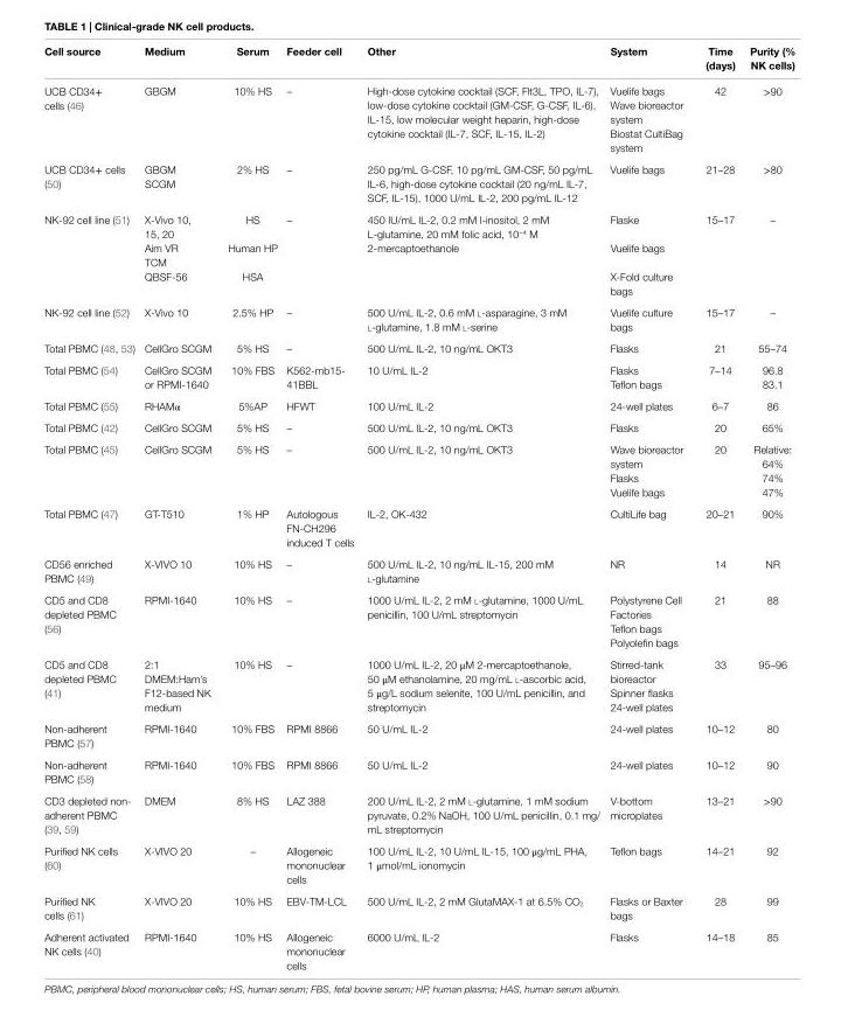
<table><thead><tr><td>Cell source</td><td>Medium</td><td>Serum</td><td>Feeder cell</td><td>Other</td><td>System</td><td>Time (days)</td><td>Purity (% NK cells)</td></tr></thead><tbody><tr><td rowspan="3">UCB CD34+ cells (46)</td><td rowspan="3">GBGM</td><td rowspan="3">10% HS</td><td rowspan="3">–</td><td rowspan="3">High-dose cytokine cocktail (SCF, Flt3L, TPO, IL-7), low-dose cytokine cocktail (GM-CSF, G-CSF, IL-6), IL-15, low molecular weight heparin, high-dose cytokine cocktail (IL-7, SCF, IL-15, IL-2)</td><td>Vuelife bags</td><td rowspan="3">42</td><td rowspan="3">&gt;90</td></tr><tr><td>Wave bioreactor system</td></tr><tr><td>Biostat CultiBag system</td></tr><tr><td rowspan="2">UCB CD34+ cells (50)</td><td>GBGM</td><td rowspan="2">2% HS</td><td rowspan="2">–</td><td rowspan="2">250 pg/mL G-CSF, 10 pg/mL GM-CSF, 50 pg/mL IL-6, high-dose cytokine cocktail (20 ng/mL IL-7, SCF, IL-15), 1000 U/mL IL-2, 200 pg/mL IL-12</td><td rowspan="2">Vuelife bags</td><td rowspan="2">21–28</td><td rowspan="2">&gt;80</td></tr><tr><td>SCGM</td></tr><tr><td rowspan="4">NK-92 cell line (51)</td><td>X-Vivo 10, 15, 20</td><td>HS</td><td rowspan="4">–</td><td rowspan="4">450 IU/mL IL-2, 0.2 mM I-inositol, 2 mM L-glutamine, 20 mM folic acid, 10<sup>−4</sup> M 2-mercaptoethanole</td><td>Flaske</td><td rowspan="4">15–17</td><td rowspan="4">–</td></tr><tr><td>Aim VR</td><td rowspan="2">Human HP</td><td rowspan="2">Vuelife bags</td></tr><tr><td>TCM</td></tr><tr><td>QBSF-56</td><td>HSA</td><td>X-Fold culture bags</td></tr><tr><td>NK-92 cell line (52)</td><td>X-Vivo 10</td><td>2.5% HP</td><td>–</td><td>500 U/mL IL-2, 0.6 mM l-asparagine, 3 mM l-glutamine, 1.8 mM l-serine</td><td>Vuelife culture bags</td><td>15–17</td><td>–</td></tr><tr><td>Total PBMC (48, 53)</td><td>CellGro SCGM</td><td>5% HS</td><td>–</td><td>500 U/mL IL-2, 10 ng/mL OKT3</td><td>Flasks</td><td>21</td><td>55–74</td></tr><tr><td rowspan="2">Total PBMC (54)</td><td rowspan="2">CellGro SCGM or RPMI-1640</td><td rowspan="2">10% FBS</td><td rowspan="2">K562-mb15- 41BBL</td><td rowspan="2">10 U/mL IL-2</td><td>Flasks</td><td rowspan="2">7–14</td><td>96.8</td></tr><tr><td>Teflon bags</td><td>83.1</td></tr><tr><td>Total PBMC (55)</td><td>RHAMα</td><td>5%AP</td><td>HFWT</td><td>100 U/mL IL-2</td><td>24-well plates</td><td>6–7</td><td>86</td></tr><tr><td>Total PBMC (42)</td><td>CellGro SCGM</td><td>5% HS</td><td>–</td><td>500 U/mL IL-2, 10 ng/mL OKT3</td><td>Flasks</td><td>20</td><td>65%</td></tr><tr><td rowspan="3">Total PBMC (45)</td><td rowspan="3">CellGro SCGM</td><td rowspan="3">5% HS</td><td rowspan="3">–</td><td rowspan="3">500 U/mL IL-2, 10 ng/mL OKT3</td><td>Wave bioreactor system</td><td rowspan="3">20</td><td>Relative: 64%</td></tr><tr><td>Flasks</td><td>74%</td></tr><tr><td>Vuelife bags</td><td>47%</td></tr><tr><td>Total PBMC (47)</td><td>GT-T510</td><td>1% HP</td><td>Autologous FN-CH296 induced T cells</td><td>IL-2, OK-432</td><td>CultiLife bag</td><td>20–21</td><td>90%</td></tr><tr><td>CD56 enriched PBMC (49)</td><td>X-VIVO 10</td><td>10% HS</td><td>–</td><td>500 U/mL IL-2, 10 ng/mL IL-15, 200 mM l-glutamine</td><td>NR</td><td>14</td><td>NR</td></tr><tr><td rowspan="3">CD5 and CD8 depleted PBMC (56)</td><td rowspan="3">RPMI-1640</td><td rowspan="3">10% HS</td><td rowspan="3">–</td><td rowspan="3">1000 U/mL IL-2, 2 mM l-glutamine, 1000 U/mL penicillin, 100 U/mL streptomycin</td><td>Polystyrene Cell Factories</td><td rowspan="3">21</td><td rowspan="3">88</td></tr><tr><td>Teflon bags</td></tr><tr><td>Polyolefin bags</td></tr><tr><td rowspan="3">CD5 and CD8 depleted PBMC (41)</td><td rowspan="3">2:1 DMEM:Ham’s F12-based NK medium</td><td rowspan="3">10% HS</td><td rowspan="3">–</td><td rowspan="3">1000 U/mL IL-2, 20 μM 2-mercaptoethanole, 50 μM ethanolamine, 20 mg/mL l-ascorbic acid, 5 μg/L sodium selenite, 100 U/mL penicillin, and streptomycin</td><td>Stirred-tank bioreactor</td><td rowspan="3">33</td><td rowspan="3">95–96</td></tr><tr><td>Spinner flasks</td></tr><tr><td>24-well plates</td></tr><tr><td>Non-adherent PBMC (57)</td><td>RPMI-1640</td><td>10% FBS</td><td>RPMI 8866</td><td>50 U/mL IL-2</td><td>24-well plates</td><td>10–12</td><td>80</td></tr><tr><td>Non-adherent PBMC (58)</td><td>RPMI-1640</td><td>10% FBS</td><td>RPMI 8866</td><td>50 U/mL IL-2</td><td>24-well plates</td><td>10–12</td><td>90</td></tr><tr><td>CD3 depleted non- adherent PBMC (39, 59)</td><td>DMEM</td><td>8% HS</td><td>LAZ 388</td><td>200 U/mL IL-2, 2 mM l-glutamine, 1 mM sodium pyruvate, 0.2% NaOH, 100 U/mL penicillin, 0.1 mg/ mL streptomycin</td><td>V-bottom microplates</td><td>13–21</td><td>&gt;90</td></tr><tr><td>Purified NK cells (60)</td><td>X-VIVO 20</td><td>–</td><td>Allogeneic mononuclear cells</td><td>100 U/mL IL-2, 10 U/mL IL-15, 100 μg/mL PHA, 1 μmol/mL ionomycin</td><td>Teflon bags</td><td>14–21</td><td>92</td></tr><tr><td>Purified NK cells (61)</td><td>X-VIVO 20</td><td>10% HS</td><td>EBV-TM-LCL</td><td>500 U/mL IL-2, 2 mM GlutaMAX-1 at 6.5% CO<sub>2</sub></td><td>Flasks or Baxter bags</td><td>28</td><td>99</td></tr><tr><td>Adherent activated NK cells (40)</td><td>RPMI-1640</td><td>10% HS</td><td>Allogeneic mononuclear cells</td><td>6000 U/mL IL-2</td><td>Flasks</td><td>14–18</td><td>85</td></tr></tbody></table>